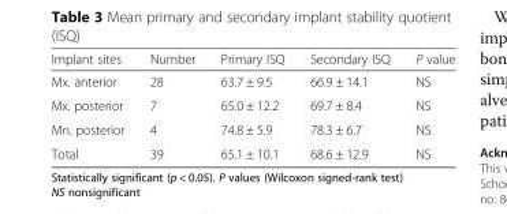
<table><thead><tr><td>Implant sites</td><td>Number</td><td>Primary ISQ</td><td>Secondary ISQ</td><td>P value</td></tr></thead><tbody><tr><td>Mx. anterior</td><td>28</td><td>63.7 ± 9.5</td><td>66.9 ± 14.1</td><td>NS</td></tr><tr><td>Mx. posterior</td><td>7</td><td>65.0 ± 12.2</td><td>69.7 ± 8.4</td><td>NS</td></tr><tr><td>Mn. posterior</td><td>4</td><td>74.8 ± 5.9</td><td>78.3 ± 6.7</td><td>NS</td></tr><tr><td>Total</td><td>39</td><td>65.1 ± 10.1</td><td>68.6 ± 12.9</td><td>NS</td></tr></tbody></table>